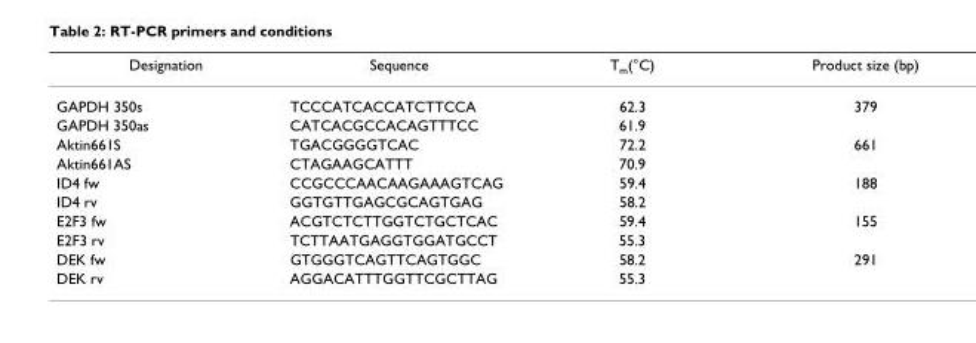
<table><thead><tr><td>Designation</td><td>Sequence</td><td>T<sub>m</sub>(°C)</td><td>Product size (bp)</td></tr></thead><tbody><tr><td>GAPDH 350s</td><td>TCCCATCACCATCTTCCA</td><td>62.3</td><td>379</td></tr><tr><td>GAPDH 350as</td><td>CATCACGCCACAGTTTCC</td><td>61.9</td><td></td></tr><tr><td>Aktin661S</td><td>TGACGGGGTCAC</td><td>72.2</td><td>661</td></tr><tr><td>Aktin661AS</td><td>CTAGAAGCATTT</td><td>70.9</td><td></td></tr><tr><td>ID4 fw</td><td>CCGCCCAACAAGAAAGTCAG</td><td>59.4</td><td>188</td></tr><tr><td>ID4 rv</td><td>GGTGTTGAGCGCAGTGAG</td><td>58.2</td><td></td></tr><tr><td>E2F3 fw</td><td>ACGTCTCTTGGTCTGCTCAC</td><td>59.4</td><td>155</td></tr><tr><td>E2F3 rv</td><td>TCTTAATGAGGTGGATGCCT</td><td>55.3</td><td></td></tr><tr><td>DEK fw</td><td>GTGGGTCAGTTCAGTGGC</td><td>58.2</td><td>291</td></tr><tr><td>DEK rv</td><td>AGGACATTTGGTTCGCTTAG</td><td>55.3</td><td></td></tr></tbody></table>